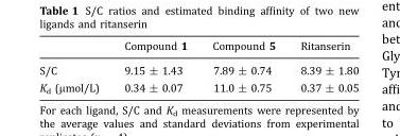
<table><thead><tr><td></td><td>Compound 1</td><td>Compound 5</td><td>Ritanserin</td></tr></thead><tbody><tr><td>S/C</td><td>9.15 ± 1.43</td><td>7.89 ± 0.74</td><td>8.39 ± 1.80</td></tr><tr><td>K<sub>d</sub> (μmol/L)</td><td>0.34 ± 0.07</td><td>11.0 ± 0.75</td><td>0.37 ± 0.05</td></tr></tbody></table>